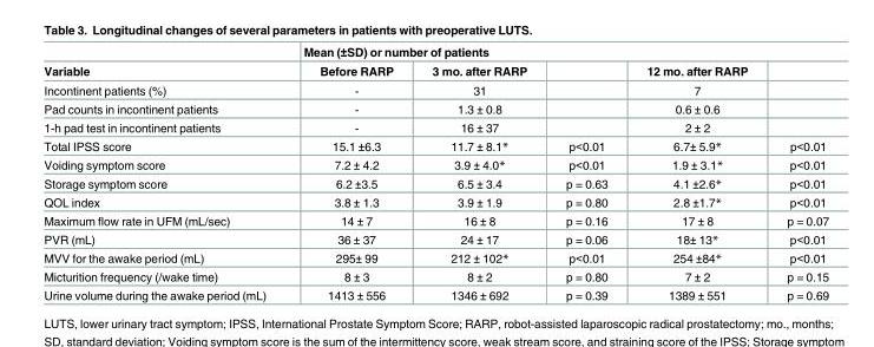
<table><thead><tr><td rowspan="2">Variable</td><td colspan="5">Mean (±SD) or number of patients</td></tr><tr><td>Before RARP</td><td>3 mo. after RARP</td><td></td><td>12 mo. after RARP</td><td></td></tr></thead><tbody><tr><td>Incontinent patients (%)</td><td>-</td><td>31</td><td></td><td>7</td><td></td></tr><tr><td>Pad counts in incontinent patients</td><td>-</td><td>1.3 ± 0.8</td><td></td><td>0.6 ± 0.6</td><td></td></tr><tr><td>1-h pad test in incontinent patients</td><td>-</td><td>16 ± 37</td><td></td><td>2 ± 2</td><td></td></tr><tr><td>Total IPSS score</td><td>15.1 ±6.3</td><td>11.7 ± 8.1*</td><td>p&lt;0.01</td><td>6.7± 5.9*</td><td>p&lt;0.01</td></tr><tr><td>Voiding symptom score</td><td>7.2 ± 4.2</td><td>3.9 ± 4.0*</td><td>p&lt;0.01</td><td>1.9 ± 3.1*</td><td>p&lt;0.01</td></tr><tr><td>Storage symptom score</td><td>6.2 ±3.5</td><td>6.5 ± 3.4</td><td>p = 0.63</td><td>4.1 ±2.6*</td><td>p&lt;0.01</td></tr><tr><td>QOL index</td><td>3.8 ± 1.3</td><td>3.9 ± 1.9</td><td>p = 0.80</td><td>2.8 ±1.7*</td><td>p&lt;0.01</td></tr><tr><td>Maximum flow rate in UFM (mL/sec)</td><td>14 ± 7</td><td>16 ± 8</td><td>p = 0.16</td><td>17 ± 8</td><td>p = 0.07</td></tr><tr><td>PVR (mL)</td><td>36 ± 37</td><td>24 ± 17</td><td>p = 0.06</td><td>18± 13*</td><td>p&lt;0.01</td></tr><tr><td>MVV for the awake period (mL)</td><td>295± 99</td><td>212 ± 102*</td><td>p&lt;0.01</td><td>254 ±84*</td><td>p&lt;0.01</td></tr><tr><td>Micturition frequency (/wake time)</td><td>8 ± 3</td><td>8 ± 2</td><td>p = 0.80</td><td>7 ± 2</td><td>p = 0.15</td></tr><tr><td>Urine volume during the awake period (mL)</td><td>1413 ± 556</td><td>1346 ± 692</td><td>p = 0.39</td><td>1389 ± 551</td><td>p = 0.69</td></tr></tbody></table>